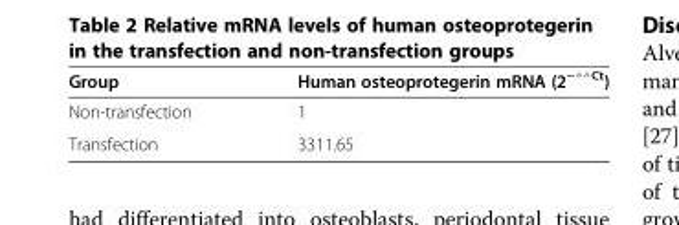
<table><thead><tr><td>Group</td><td>Human osteoprotegerin mRNA (2<sup>−△△Ct</sup>)</td></tr></thead><tbody><tr><td>Non-transfection</td><td>1</td></tr><tr><td>Transfection</td><td>3311.65</td></tr></tbody></table>